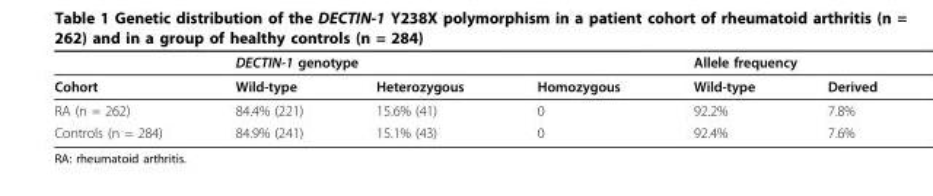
<table><thead><tr><td rowspan="2">Cohort</td><td colspan="3">DECTIN-1 genotype</td><td colspan="2">Allele frequency</td></tr><tr><td>Wild-type</td><td>Heterozygous</td><td>Homozygous</td><td>Wild-type</td><td>Derived</td></tr></thead><tbody><tr><td>RA (n = 262)</td><td>84.4% (221)</td><td>15.6% (41)</td><td>0</td><td>92.2%</td><td>7.8%</td></tr><tr><td>Controls (n = 284)</td><td>84.9% (241)</td><td>15.1% (43)</td><td>0</td><td>92.4%</td><td>7.6%</td></tr></tbody></table>